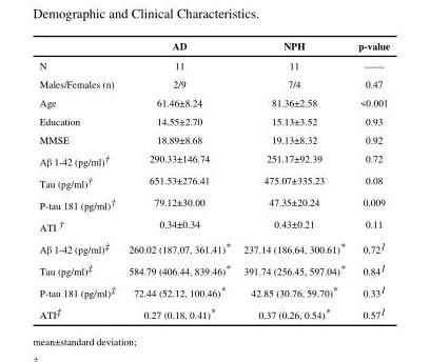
<table><thead><tr><td></td><td>AD</td><td>NPH</td><td>p-value</td></tr></thead><tbody><tr><td>N</td><td>11</td><td>11</td><td>------</td></tr><tr><td>Males/Females (n)</td><td>2/9</td><td>7/4</td><td>0.47</td></tr><tr><td>Age</td><td>61.46±8.24</td><td>81.36±2.58</td><td>&lt;0.001</td></tr><tr><td>Education</td><td>14.55±2.70</td><td>15.13±3.52</td><td>0.93</td></tr><tr><td>MMSE</td><td>18.89±8.68</td><td>19.13±8.32</td><td>0.92</td></tr><tr><td>Aβ 1-42 (pg/ml)†</td><td>290.33±146.74</td><td>251.17±92.39</td><td>0.72</td></tr><tr><td>Tau (pg/ml)†</td><td>651.53±276.41</td><td>475.07±335.23</td><td>0.08</td></tr><tr><td>P-tau 181 (pg/ml)†</td><td>79.12±30.00</td><td>47.35±20.24</td><td>0.009</td></tr><tr><td>ATI †</td><td>0.34±0.34</td><td>0.43±0.21</td><td>0.11</td></tr><tr><td>Aβ 1-42 (pg/ml)‡</td><td>260.02 (187.07, 361.41)*</td><td>237.14 (186.64, 300.61)*</td><td>0.72<sup>1</sup></td></tr><tr><td>Tau (pg/ml)‡</td><td>584.79 (406.44, 839.46)*</td><td>391.74 (256.45, 597.04)*</td><td>0.84<sup>1</sup></td></tr><tr><td>P-tau 181 (pg/ml)‡</td><td>72.44 (52.12, 100.46)*</td><td>42.85 (30.76, 59.70)*</td><td>0.33<sup>1</sup></td></tr><tr><td>ATI‡</td><td>0.27 (0.18, 0.41)*</td><td>0.37 (0.26, 0.54)*</td><td>0.57<sup>1</sup></td></tr></tbody></table>